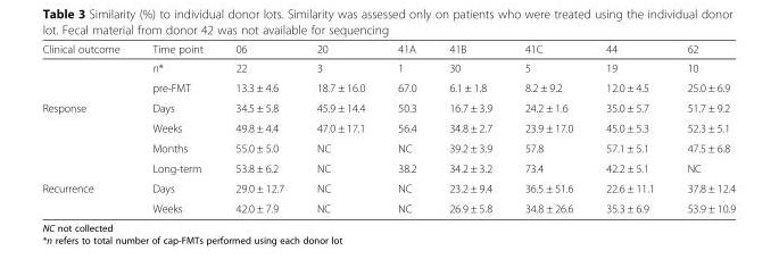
<table><thead><tr><td>Clinical outcome</td><td>Time point</td><td>06</td><td>20</td><td>41A</td><td>41B</td><td>41C</td><td>44</td><td>62</td></tr></thead><tbody><tr><td></td><td>n*</td><td>22</td><td>3</td><td>1</td><td>30</td><td>5</td><td>19</td><td>10</td></tr><tr><td></td><td>pre-FMT</td><td>13.3 ± 4.6</td><td>18.7 ± 16.0</td><td>67.0</td><td>6.1 ± 1.8</td><td>8.2 ± 9.2</td><td>12.0 ± 4.5</td><td>25.0 ± 6.9</td></tr><tr><td rowspan="4">Response</td><td>Days</td><td>34.5 ± 5.8</td><td>45.9 ± 14.4</td><td>50.3</td><td>16.7 ± 3.9</td><td>24.2 ± 1.6</td><td>35.0 ± 5.7</td><td>51.7 ± 9.2</td></tr><tr><td>Weeks</td><td>49.8 ± 4.4</td><td>47.0 ± 17.1</td><td>56.4</td><td>34.8 ± 2.7</td><td>23.9 ± 17.0</td><td>45.0 ± 5.3</td><td>52.3 ± 5.1</td></tr><tr><td>Months</td><td>55.0 ± 5.0</td><td>NC</td><td>NC</td><td>39.2 ± 3.9</td><td>57.8</td><td>57.1 ± 5.1</td><td>47.5 ± 6.8</td></tr><tr><td>Long-term</td><td>53.8 ± 6.2</td><td>NC</td><td>38.2</td><td>34.2 ± 3.2</td><td>73.4</td><td>42.2 ± 5.1</td><td>NC</td></tr><tr><td rowspan="2">Recurrence</td><td>Days</td><td>29.0 ± 12.7</td><td>NC</td><td>NC</td><td>23.2 ± 9.4</td><td>36.5 ± 51.6</td><td>22.6 ± 11.1</td><td>37.8 ± 12.4</td></tr><tr><td>Weeks</td><td>42.0 ± 7.9</td><td>NC</td><td>NC</td><td>26.9 ± 5.8</td><td>34.8 ± 26.6</td><td>35.3 ± 6.9</td><td>53.9 ± 10.9</td></tr></tbody></table>